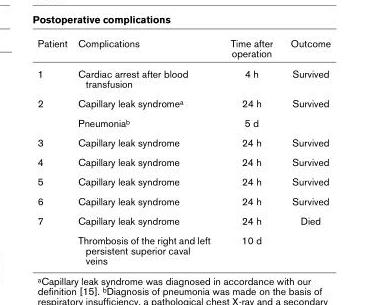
<table><thead><tr><td>Patient</td><td>Complications</td><td>Time after operation</td><td>Outcome</td></tr></thead><tbody><tr><td>1</td><td>Cardiac arrest after blood transfusion</td><td>4 h</td><td>Survived</td></tr><tr><td rowspan="2">2</td><td>Capillary leak syndromea</td><td>24 h</td><td>Survived</td></tr><tr><td>Pneumoniab</td><td>5 d</td><td></td></tr><tr><td>3</td><td>Capillary leak syndrome</td><td>24 h</td><td>Survived</td></tr><tr><td>4</td><td>Capillary leak syndrome</td><td>24 h</td><td>Survived</td></tr><tr><td>5</td><td>Capillary leak syndrome</td><td>24 h</td><td>Survived</td></tr><tr><td>6</td><td>Capillary leak syndrome</td><td>24 h</td><td>Survived</td></tr><tr><td rowspan="2">7</td><td>Capillary leak syndrome</td><td>24 h</td><td>Died</td></tr><tr><td>Thrombosis of the right and left persistent superior caval veins</td><td>10 d</td><td></td></tr></tbody></table>